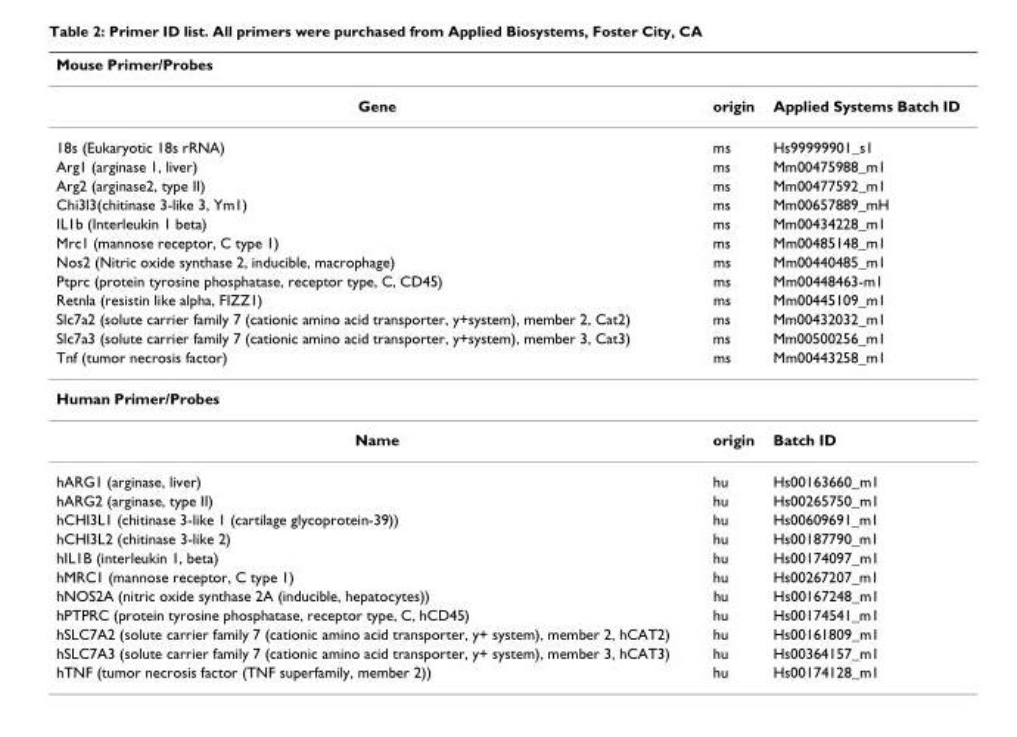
<table><thead><tr><td colspan="3">Mouse Primer/Probes</td></tr><tr><td>Gene</td><td>origin</td><td>Applied Systems Batch ID</td></tr></thead><tbody><tr><td>18s (Eukaryotic 18s rRNA)</td><td>ms</td><td>Hs99999901_s1</td></tr><tr><td>Arg1 (arginase 1, liver)</td><td>ms</td><td>Mm00475988_m1</td></tr><tr><td>Arg2 (arginase2, type II)</td><td>ms</td><td>Mm00477592_m1</td></tr><tr><td>Chi3l3(chitinase 3-like 3, Ym1)</td><td>ms</td><td>Mm00657889_mH</td></tr><tr><td>IL1b (Interleukin 1 beta)</td><td>ms</td><td>Mm00434228_m1</td></tr><tr><td>Mrc1 (mannose receptor, C type 1)</td><td>ms</td><td>Mm00485148_m1</td></tr><tr><td>Nos2 (Nitric oxide synthase 2, inducible, macrophage)</td><td>ms</td><td>Mm00440485_m1</td></tr><tr><td>Ptprc (protein tyrosine phosphatase, receptor type, C, CD45)</td><td>ms</td><td>Mm00448463-m1</td></tr><tr><td>Retnla (resistin like alpha, FIZZ1)</td><td>ms</td><td>Mm00445109_m1</td></tr><tr><td>Slc7a2 (solute carrier family 7 (cationic amino acid transporter, y+system), member 2, Cat2)</td><td>ms</td><td>Mm00432032_m1</td></tr><tr><td>Slc7a3 (solute carrier family 7 (cationic amino acid transporter, y+system), member 3, Cat3)</td><td>ms</td><td>Mm00500256_m1</td></tr><tr><td>Tnf (tumor necrosis factor)</td><td>ms</td><td>Mm00443258_m1</td></tr><tr><td colspan="3">Human Primer/Probes</td></tr><tr><td>Name</td><td>origin</td><td>Batch ID</td></tr><tr><td>hARG1 (arginase, liver)</td><td>hu</td><td>Hs00163660_m1</td></tr><tr><td>hARG2 (arginase, type II)</td><td>hu</td><td>Hs00265750_m1</td></tr><tr><td>hCHI3L1 (chitinase 3-like 1 (cartilage glycoprotein-39))</td><td>hu</td><td>Hs00609691_m1</td></tr><tr><td>hCHI3L2 (chitinase 3-like 2)</td><td>hu</td><td>Hs00187790_m1</td></tr><tr><td>hIL1B (interleukin 1, beta)</td><td>hu</td><td>Hs00174097_m1</td></tr><tr><td>hMRC1 (mannose receptor, C type 1)</td><td>hu</td><td>Hs00267207_m1</td></tr><tr><td>hNOS2A (nitric oxide synthase 2A (inducible, hepatocytes))</td><td>hu</td><td>Hs00167248_m1</td></tr><tr><td>hPTPRC (protein tyrosine phosphatase, receptor type, C, hCD45)</td><td>hu</td><td>Hs00174541_m1</td></tr><tr><td>hSLC7A2 (solute carrier family 7 (cationic amino acid transporter, y+ system), member 2, hCAT2)</td><td>hu</td><td>Hs00161809_m1</td></tr><tr><td>hSLC7A3 (solute carrier family 7 (cationic amino acid transporter, y+ system), member 3, hCAT3)</td><td>hu</td><td>Hs00364157_m1</td></tr><tr><td>hTNF (tumor necrosis factor (TNF superfamily, member 2))</td><td>hu</td><td>Hs00174128_m1</td></tr></tbody></table>